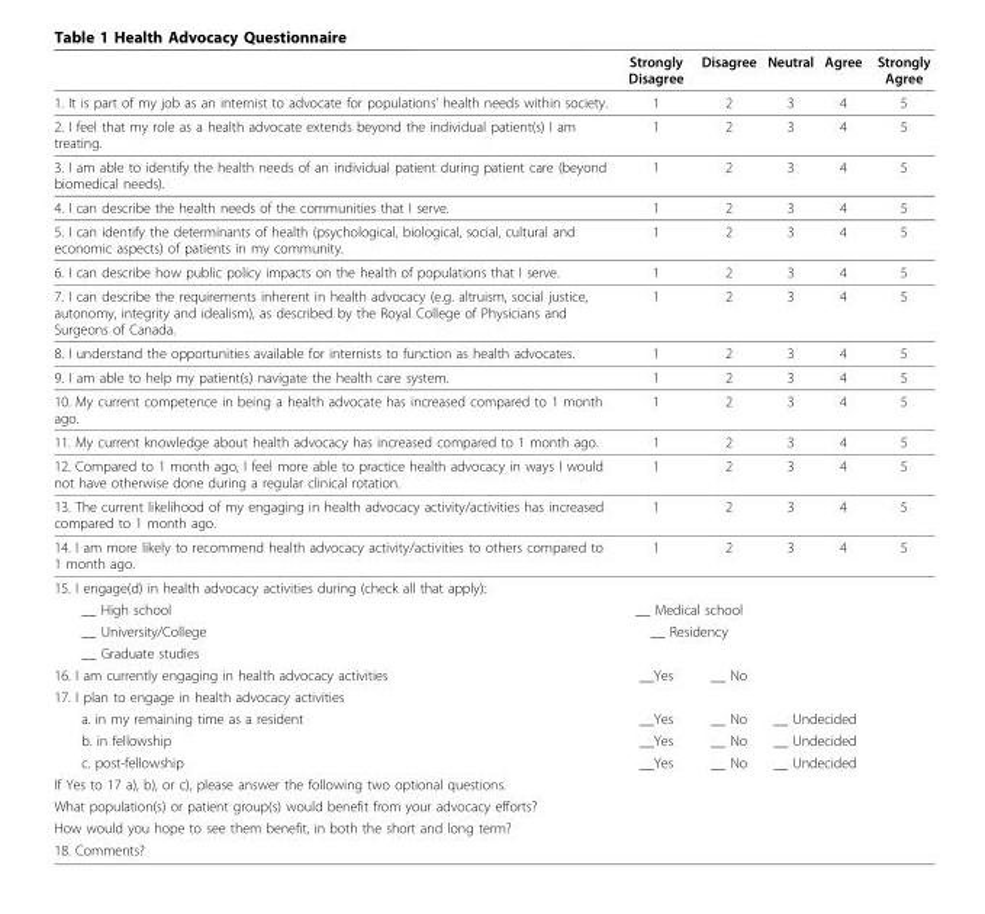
<table><thead><tr><td></td><td>Strongly Disagree</td><td>Disagree</td><td>Neutral</td><td>Agree</td><td>Strongly Agree</td></tr></thead><tbody><tr><td>1. It is part of my job as an internist to advocate for populations’ health needs within society.</td><td>1</td><td>2</td><td>3</td><td>4</td><td>5</td></tr><tr><td>2. I feel that my role as a health advocate extends beyond the individual patient(s) I am treating.</td><td>1</td><td>2</td><td>3</td><td>4</td><td>5</td></tr><tr><td>3. I am able to identify the health needs of an individual patient during patient care (beyond biomedical needs).</td><td>1</td><td>2</td><td>3</td><td>4</td><td>5</td></tr><tr><td>4. I can describe the health needs of the communities that I serve.</td><td>1</td><td>2</td><td>3</td><td>4</td><td>5</td></tr><tr><td>5. I can identify the determinants of health (psychological, biological, social, cultural and economic aspects) of patients in my community.</td><td>1</td><td>2</td><td>3</td><td>4</td><td>5</td></tr><tr><td>6. I can describe how public policy impacts on the health of populations that I serve.</td><td>1</td><td>2</td><td>3</td><td>4</td><td>5</td></tr><tr><td>7. I can describe the requirements inherent in health advocacy (e.g. altruism, social justice, autonomy, integrity and idealism), as described by the Royal College of Physicians and Surgeons of Canada.</td><td>1</td><td>2</td><td>3</td><td>4</td><td>5</td></tr><tr><td>8. I understand the opportunities available for internists to function as health advocates.</td><td>1</td><td>2</td><td>3</td><td>4</td><td>5</td></tr><tr><td>9. I am able to help my patient(s) navigate the health care system.</td><td>1</td><td>2</td><td>3</td><td>4</td><td>5</td></tr><tr><td>10. My current competence in being a health advocate has increased compared to 1 month ago.</td><td>1</td><td>2</td><td>3</td><td>4</td><td>5</td></tr><tr><td>11. My current knowledge about health advocacy has increased compared to 1 month ago.</td><td>1</td><td>2</td><td>3</td><td>4</td><td>5</td></tr><tr><td>12. Compared to 1 month ago, I feel more able to practice health advocacy in ways I would not have otherwise done during a regular clinical rotation.</td><td>1</td><td>2</td><td>3</td><td>4</td><td>5</td></tr><tr><td>13. The current likelihood of my engaging in health advocacy activity/activities has increased compared to 1 month ago.</td><td>1</td><td>2</td><td>3</td><td>4</td><td>5</td></tr><tr><td>14. I am more likely to recommend health advocacy activity/activities to others compared to 1 month ago.</td><td>1</td><td>2</td><td>3</td><td>4</td><td>5</td></tr><tr><td colspan="6">15. I engage(d) in health advocacy activities during (check all that apply):</td></tr><tr><td>__ High school</td><td colspan="2">__ Medical school</td><td></td><td></td><td></td></tr><tr><td>__ University/College</td><td colspan="2">__ Residency</td><td></td><td></td><td></td></tr><tr><td colspan="6">__ Graduate studies</td></tr><tr><td>16. I am currently engaging in health advocacy activities</td><td>__Yes</td><td>__ No</td><td></td><td></td><td></td></tr><tr><td colspan="6">17. I plan to engage in health advocacy activities</td></tr><tr><td>a. in my remaining time as a resident</td><td>__Yes</td><td>__ No</td><td colspan="2">__ Undecided</td><td></td></tr><tr><td>b. in fellowship</td><td>__Yes</td><td>__ No</td><td colspan="2">__ Undecided</td><td></td></tr><tr><td>c. post-fellowship</td><td>__Yes</td><td>__ No</td><td colspan="2">__ Undecided</td><td></td></tr><tr><td colspan="6">If Yes to 17 a), b), or c), please answer the following two optional questions.</td></tr><tr><td colspan="6">What population(s) or patient group(s) would benefit from your advocacy efforts?</td></tr><tr><td colspan="6">How would you hope to see them benefit, in both the short and long term?</td></tr><tr><td>18. Comments?</td><td></td><td></td><td></td><td></td><td></td></tr></tbody></table>